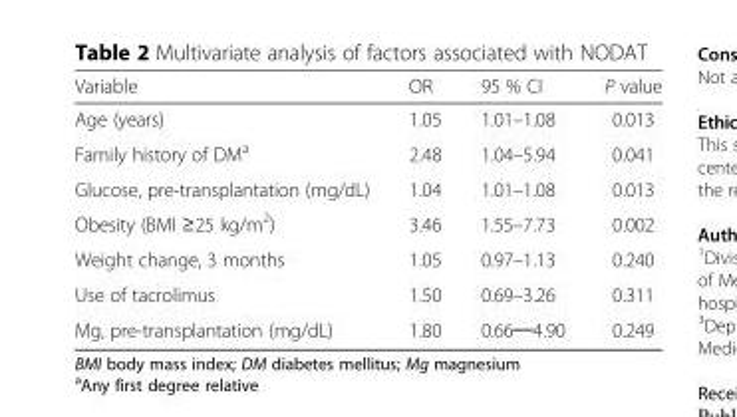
<table><thead><tr><td>Variable</td><td>OR</td><td>95 % CI</td><td>P value</td></tr></thead><tbody><tr><td>Age (years)</td><td>1.05</td><td>1.01–1.08</td><td>0.013</td></tr><tr><td>Family history of DM<sup>a</sup></td><td>2.48</td><td>1.04–5.94</td><td>0.041</td></tr><tr><td>Glucose, pre-transplantation (mg/dL)</td><td>1.04</td><td>1.01–1.08</td><td>0.013</td></tr><tr><td>Obesity (BMI ≥25 kg/m<sup>2</sup>)</td><td>3.46</td><td>1.55–7.73</td><td>0.002</td></tr><tr><td>Weight change, 3 months</td><td>1.05</td><td>0.97–1.13</td><td>0.240</td></tr><tr><td>Use of tacrolimus</td><td>1.50</td><td>0.69–3.26</td><td>0.311</td></tr><tr><td>Mg, pre-transplantation (mg/dL)</td><td>1.80</td><td>0.66─4.90</td><td>0.249</td></tr></tbody></table>